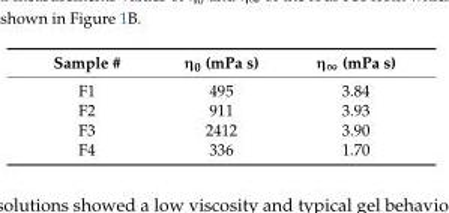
<table><thead><tr><td>Sample #</td><td>η0 (mPa s)</td><td>η∞ (mPa s)</td></tr></thead><tbody><tr><td>F1</td><td>495</td><td>3.84</td></tr><tr><td>F2</td><td>911</td><td>3.93</td></tr><tr><td>F3</td><td>2412</td><td>3.90</td></tr><tr><td>F4</td><td>336</td><td>1.70</td></tr></tbody></table>